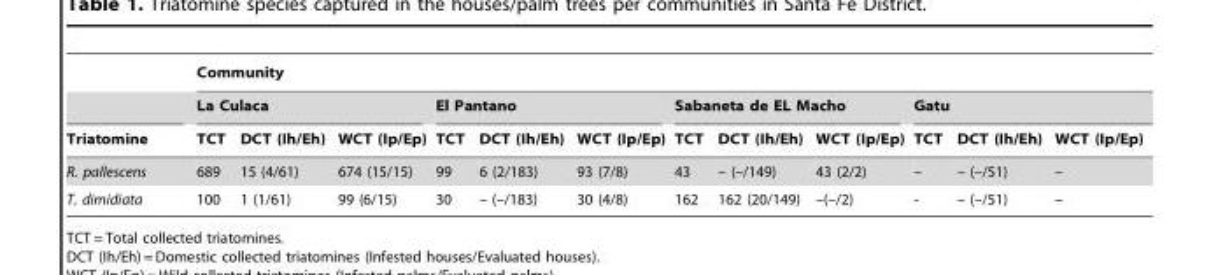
<table><thead><tr><td rowspan="3">Triatomine</td><td colspan="12">Community</td></tr><tr><td colspan="3">La Culaca</td><td colspan="3">El Pantano</td><td colspan="3">Sabaneta de EL Macho</td><td colspan="3">Gatu</td></tr><tr><td>TCT</td><td>DCT (Ih/Eh)</td><td>WCT (Ip/Ep)</td><td>TCT</td><td>DCT (Ih/Eh)</td><td>WCT (Ip/Ep)</td><td>TCT</td><td>DCT (Ih/Eh)</td><td>WCT (Ip/Ep)</td><td>TCT</td><td>DCT (Ih/Eh)</td><td>WCT (Ip/Ep)</td></tr></thead><tbody><tr><td>R. pallescens</td><td>689</td><td>15 (4/61)</td><td>674 (15/15)</td><td>99</td><td>6 (2/183)</td><td>93 (7/8)</td><td>43</td><td>– (–/149)</td><td>43 (2/2)</td><td>–</td><td>– (–/51)</td><td>–</td></tr><tr><td>T. dimidiata</td><td>100</td><td>1 (1/61)</td><td>99 (6/15)</td><td>30</td><td>– (–/183)</td><td>30 (4/8)</td><td>162</td><td>162 (20/149)</td><td>–(–/2)</td><td>-</td><td>– (–/51)</td><td>–</td></tr></tbody></table>